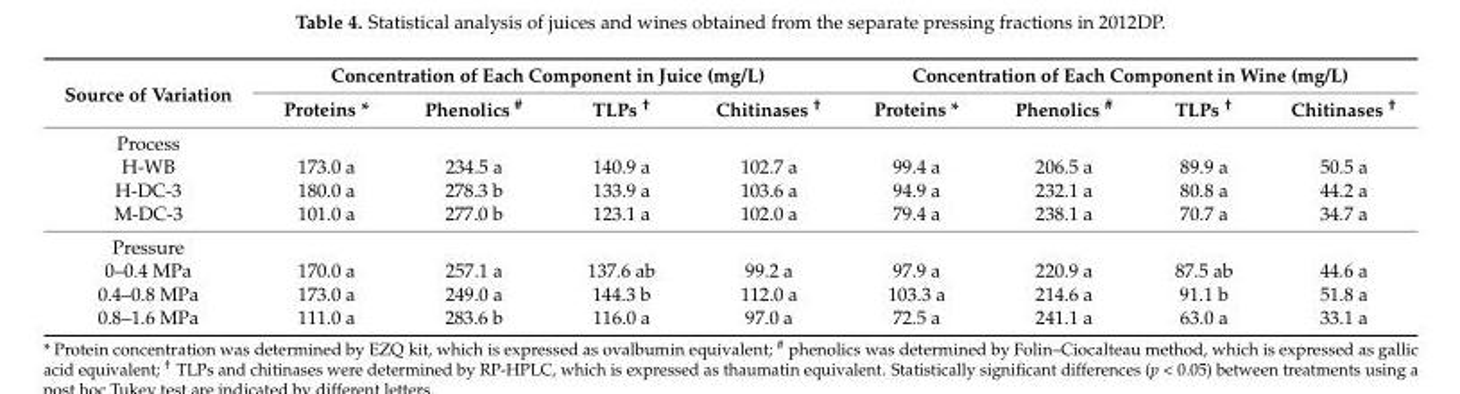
<table><thead><tr><td rowspan="2">Source of Variation</td><td colspan="4">Concentration of Each Component in Juice (mg/L)</td><td colspan="4">Concentration of Each Component in Wine (mg/L)</td></tr><tr><td>Proteins *</td><td>Phenolics <sup>#</sup></td><td>TLPs <sup>†</sup></td><td>Chitinases <sup>†</sup></td><td>Proteins *</td><td>Phenolics <sup>#</sup></td><td>TLPs <sup>†</sup></td><td>Chitinases <sup>†</sup></td></tr></thead><tbody><tr><td colspan="9">Process</td></tr><tr><td>H-WB</td><td>173.0 a</td><td>234.5 a</td><td>140.9 a</td><td>102.7 a</td><td>99.4 a</td><td>206.5 a</td><td>89.9 a</td><td>50.5 a</td></tr><tr><td>H-DC-3</td><td>180.0 a</td><td>278.3 b</td><td>133.9 a</td><td>103.6 a</td><td>94.9 a</td><td>232.1 a</td><td>80.8 a</td><td>44.2 a</td></tr><tr><td>M-DC-3</td><td>101.0 a</td><td>277.0 b</td><td>123.1 a</td><td>102.0 a</td><td>79.4 a</td><td>238.1 a</td><td>70.7 a</td><td>34.7 a</td></tr><tr><td colspan="9">Pressure</td></tr><tr><td>0–0.4 MPa</td><td>170.0 a</td><td>257.1 a</td><td>137.6 ab</td><td>99.2 a</td><td>97.9 a</td><td>220.9 a</td><td>87.5 ab</td><td>44.6 a</td></tr><tr><td>0.4–0.8 MPa</td><td>173.0 a</td><td>249.0 a</td><td>144.3 b</td><td>112.0 a</td><td>103.3 a</td><td>214.6 a</td><td>91.1 b</td><td>51.8 a</td></tr><tr><td>0.8–1.6 MPa</td><td>111.0 a</td><td>283.6 b</td><td>116.0 a</td><td>97.0 a</td><td>72.5 a</td><td>241.1 a</td><td>63.0 a</td><td>33.1 a</td></tr></tbody></table>